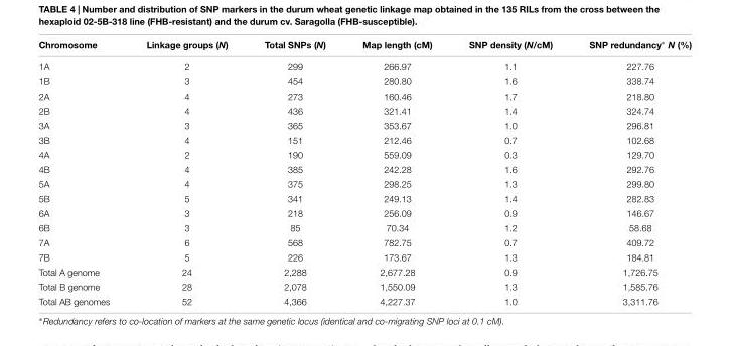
<table><thead><tr><td>Chromosome</td><td>Linkage groups (N)</td><td>Total SNPs (N)</td><td>Map length (cM)</td><td>SNP density (N/cM)</td><td>SNP redundancy∗ N (%)</td></tr></thead><tbody><tr><td>1A</td><td>2</td><td>299</td><td>266.97</td><td>1.1</td><td>227.76</td></tr><tr><td>1B</td><td>3</td><td>454</td><td>280.80</td><td>1.6</td><td>338.74</td></tr><tr><td>2A</td><td>4</td><td>273</td><td>160.46</td><td>1.7</td><td>218.80</td></tr><tr><td>2B</td><td>4</td><td>436</td><td>321.41</td><td>1.4</td><td>324.74</td></tr><tr><td>3A</td><td>3</td><td>365</td><td>353.67</td><td>1.0</td><td>296.81</td></tr><tr><td>3B</td><td>4</td><td>151</td><td>212.46</td><td>0.7</td><td>102.68</td></tr><tr><td>4A</td><td>2</td><td>190</td><td>559.09</td><td>0.3</td><td>129.70</td></tr><tr><td>4B</td><td>4</td><td>385</td><td>242.28</td><td>1.6</td><td>292.76</td></tr><tr><td>5A</td><td>4</td><td>375</td><td>298.25</td><td>1.3</td><td>299.80</td></tr><tr><td>5B</td><td>5</td><td>341</td><td>249.13</td><td>1.4</td><td>282.83</td></tr><tr><td>6A</td><td>3</td><td>218</td><td>256.09</td><td>0.9</td><td>146.67</td></tr><tr><td>6B</td><td>3</td><td>85</td><td>70.34</td><td>1.2</td><td>58.68</td></tr><tr><td>7A</td><td>6</td><td>568</td><td>782.75</td><td>0.7</td><td>409.72</td></tr><tr><td>7B</td><td>5</td><td>226</td><td>173.67</td><td>1.3</td><td>184.81</td></tr><tr><td>Total A genome</td><td>24</td><td>2,288</td><td>2,677.28</td><td>0.9</td><td>1,726.75</td></tr><tr><td>Total B genome</td><td>28</td><td>2,078</td><td>1,550.09</td><td>1.3</td><td>1,585.76</td></tr><tr><td>Total AB genomes</td><td>52</td><td>4,366</td><td>4,227.37</td><td>1.0</td><td>3,311.76</td></tr></tbody></table>